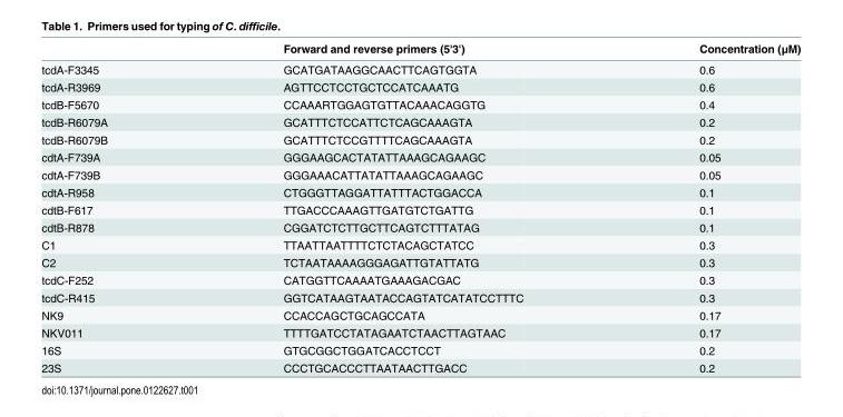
<table><thead><tr><td></td><td>Forward and reverse primers (5&#x27;3&#x27;)</td><td>Concentration (μM)</td></tr></thead><tbody><tr><td>tcdA-F3345</td><td>GCATGATAAGGCAACTTCAGTGGTA</td><td>0.6</td></tr><tr><td>tcdA-R3969</td><td>AGTTCCTCCTGCTCCATCAAATG</td><td>0.6</td></tr><tr><td>tcdB-F5670</td><td>CCAAARTGGAGTGTTACAAACAGGTG</td><td>0.4</td></tr><tr><td>tcdB-R6079A</td><td>GCATTTCTCCATTCTCAGCAAAGTA</td><td>0.2</td></tr><tr><td>tcdB-R6079B</td><td>GCATTTCTCCGTTTTCAGCAAAGTA</td><td>0.2</td></tr><tr><td>cdtA-F739A</td><td>GGGAAGCACTATATTAAAGCAGAAGC</td><td>0.05</td></tr><tr><td>cdtA-F739B</td><td>GGGAAACATTATATTAAAGCAGAAGC</td><td>0.05</td></tr><tr><td>cdtA-R958</td><td>CTGGGTTAGGATTATTTACTGGACCA</td><td>0.1</td></tr><tr><td>cdtB-F617</td><td>TTGACCCAAAGTTGATGTCTGATTG</td><td>0.1</td></tr><tr><td>cdtB-R878</td><td>CGGATCTCTTGCTTCAGTCTTTATAG</td><td>0.1</td></tr><tr><td>C1</td><td>TTAATTAATTTTCTCTACAGCTATCC</td><td>0.3</td></tr><tr><td>C2</td><td>TCTAATAAAAGGGAGATTGTATTATG</td><td>0.3</td></tr><tr><td>tcdC-F252</td><td>CATGGTTCAAAATGAAAGACGAC</td><td>0.3</td></tr><tr><td>tcdC-R415</td><td>GGTCATAAGTAATACCAGTATCATATCCTTTC</td><td>0.3</td></tr><tr><td>NK9</td><td>CCACCAGCTGCAGCCATA</td><td>0.17</td></tr><tr><td>NKV011</td><td>TTTTGATCCTATAGAATCTAACTTAGTAAC</td><td>0.17</td></tr><tr><td>16S</td><td>GTGCGGCTGGATCACCTCCT</td><td>0.2</td></tr><tr><td>23S</td><td>CCCTGCACCCTTAATAACTTGACC</td><td>0.2</td></tr></tbody></table>